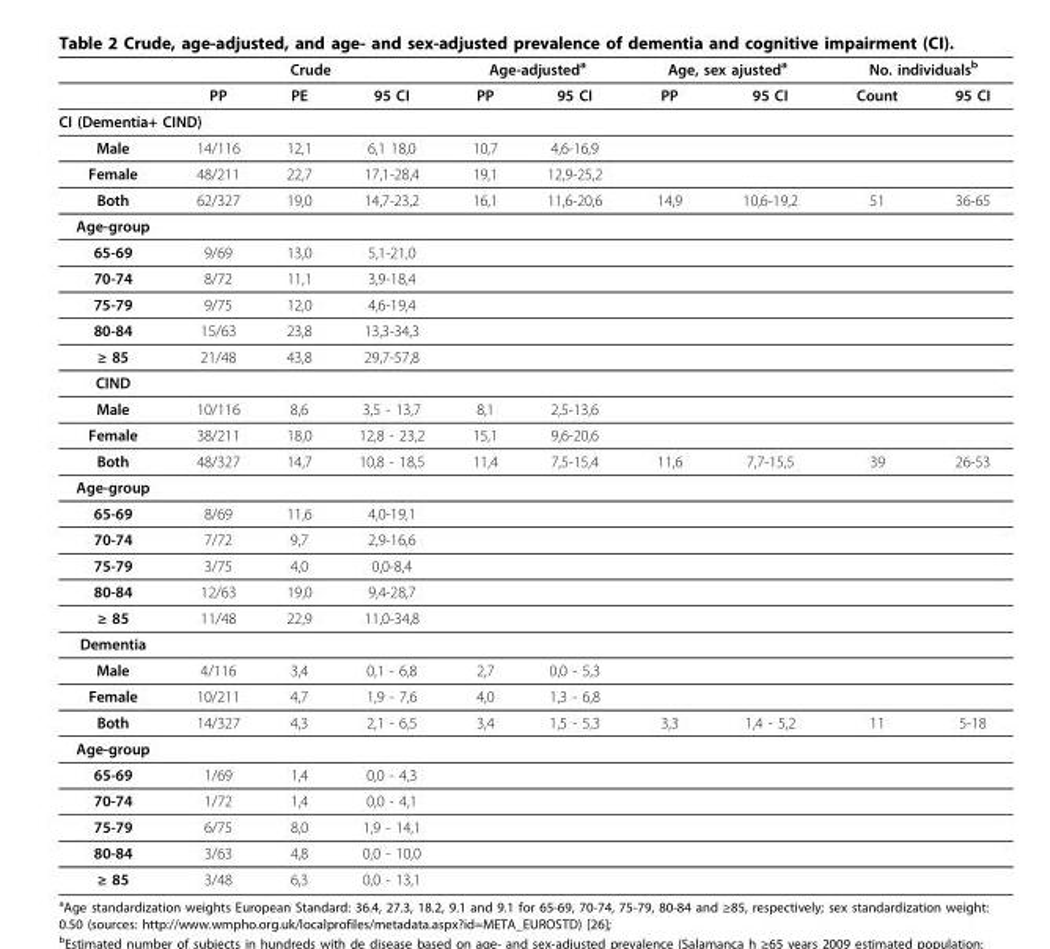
<table><thead><tr><td rowspan="2"></td><td colspan="3">Crude</td><td colspan="2">Age-adjusted<sup>a</sup></td><td colspan="2">Age, sex ajusted<sup>a</sup></td><td colspan="2">No. individuals<sup>b</sup></td></tr><tr><td>PP</td><td>PE</td><td>95 CI</td><td>PP</td><td>95 CI</td><td>PP</td><td>95 CI</td><td>Count</td><td>95 CI</td></tr></thead><tbody><tr><td colspan="10">CI (Dementia+ CIND)</td></tr><tr><td>Male</td><td>14/116</td><td>12,1</td><td>6,1 18,0</td><td>10,7</td><td>4,6-16,9</td><td></td><td></td><td></td><td></td></tr><tr><td>Female</td><td>48/211</td><td>22,7</td><td>17,1-28,4</td><td>19,1</td><td>12,9-25,2</td><td></td><td></td><td></td><td></td></tr><tr><td>Both</td><td>62/327</td><td>19,0</td><td>14,7-23,2</td><td>16,1</td><td>11,6-20,6</td><td>14,9</td><td>10,6-19,2</td><td>51</td><td>36-65</td></tr><tr><td colspan="10">Age-group</td></tr><tr><td>65-69</td><td>9/69</td><td>13,0</td><td>5,1-21,0</td><td></td><td></td><td></td><td></td><td></td><td></td></tr><tr><td>70-74</td><td>8/72</td><td>11,1</td><td>3,9-18,4</td><td></td><td></td><td></td><td></td><td></td><td></td></tr><tr><td>75-79</td><td>9/75</td><td>12,0</td><td>4,6-19,4</td><td></td><td></td><td></td><td></td><td></td><td></td></tr><tr><td>80-84</td><td>15/63</td><td>23,8</td><td>13,3-34,3</td><td></td><td></td><td></td><td></td><td></td><td></td></tr><tr><td>≥ 85</td><td>21/48</td><td>43,8</td><td>29,7-57,8</td><td></td><td></td><td></td><td></td><td></td><td></td></tr><tr><td colspan="10">CIND</td></tr><tr><td>Male</td><td>10/116</td><td>8,6</td><td>3,5 - 13,7</td><td>8,1</td><td>2,5-13,6</td><td></td><td></td><td></td><td></td></tr><tr><td>Female</td><td>38/211</td><td>18,0</td><td>12,8 - 23,2</td><td>15,1</td><td>9,6-20,6</td><td></td><td></td><td></td><td></td></tr><tr><td>Both</td><td>48/327</td><td>14,7</td><td>10,8 - 18,5</td><td>11,4</td><td>7,5-15,4</td><td>11,6</td><td>7,7-15,5</td><td>39</td><td>26-53</td></tr><tr><td colspan="10">Age-group</td></tr><tr><td>65-69</td><td>8/69</td><td>11,6</td><td>4,0-19,1</td><td></td><td></td><td></td><td></td><td></td><td></td></tr><tr><td>70-74</td><td>7/72</td><td>9,7</td><td>2,9-16,6</td><td></td><td></td><td></td><td></td><td></td><td></td></tr><tr><td>75-79</td><td>3/75</td><td>4,0</td><td>0,0-8,4</td><td></td><td></td><td></td><td></td><td></td><td></td></tr><tr><td>80-84</td><td>12/63</td><td>19,0</td><td>9,4-28,7</td><td></td><td></td><td></td><td></td><td></td><td></td></tr><tr><td>≥ 85</td><td>11/48</td><td>22,9</td><td>11,0-34,8</td><td></td><td></td><td></td><td></td><td></td><td></td></tr><tr><td colspan="10">Dementia</td></tr><tr><td>Male</td><td>4/116</td><td>3,4</td><td>0,1 - 6,8</td><td>2,7</td><td>0,0 - 5,3</td><td></td><td></td><td></td><td></td></tr><tr><td>Female</td><td>10/211</td><td>4,7</td><td>1,9 - 7,6</td><td>4,0</td><td>1,3 - 6,8</td><td></td><td></td><td></td><td></td></tr><tr><td>Both</td><td>14/327</td><td>4,3</td><td>2,1 - 6,5</td><td>3,4</td><td>1,5 - 5,3</td><td>3,3</td><td>1,4 - 5,2</td><td>11</td><td>5-18</td></tr><tr><td colspan="10">Age-group</td></tr><tr><td>65-69</td><td>1/69</td><td>1,4</td><td>0,0 - 4,3</td><td></td><td></td><td></td><td></td><td></td><td></td></tr><tr><td>70-74</td><td>1/72</td><td>1,4</td><td>0,0 - 4,1</td><td></td><td></td><td></td><td></td><td></td><td></td></tr><tr><td>75-79</td><td>6/75</td><td>8,0</td><td>1,9 - 14,1</td><td></td><td></td><td></td><td></td><td></td><td></td></tr><tr><td>80-84</td><td>3/63</td><td>4,8</td><td>0,0 - 10,0</td><td></td><td></td><td></td><td></td><td></td><td></td></tr><tr><td>≥ 85</td><td>3/48</td><td>6,3</td><td>0,0 - 13,1</td><td></td><td></td><td></td><td></td><td></td><td></td></tr></tbody></table>